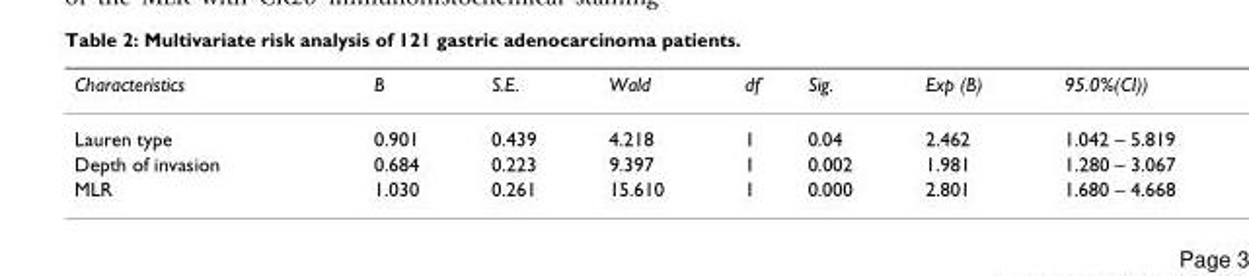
<table><thead><tr><td>Characteristics</td><td>B</td><td>S.E.</td><td>Wald</td><td>df</td><td>Sig.</td><td>Exp (B)</td><td>95.0%(CI))</td></tr></thead><tbody><tr><td>Lauren type</td><td>0.901</td><td>0.439</td><td>4.218</td><td>1</td><td>0.04</td><td>2.462</td><td>1.042 – 5.819</td></tr><tr><td>Depth of invasion</td><td>0.684</td><td>0.223</td><td>9.397</td><td>1</td><td>0.002</td><td>1.981</td><td>1.280 – 3.067</td></tr><tr><td>MLR</td><td>1.030</td><td>0.261</td><td>15.610</td><td>1</td><td>0.000</td><td>2.801</td><td>1.680 – 4.668</td></tr></tbody></table>